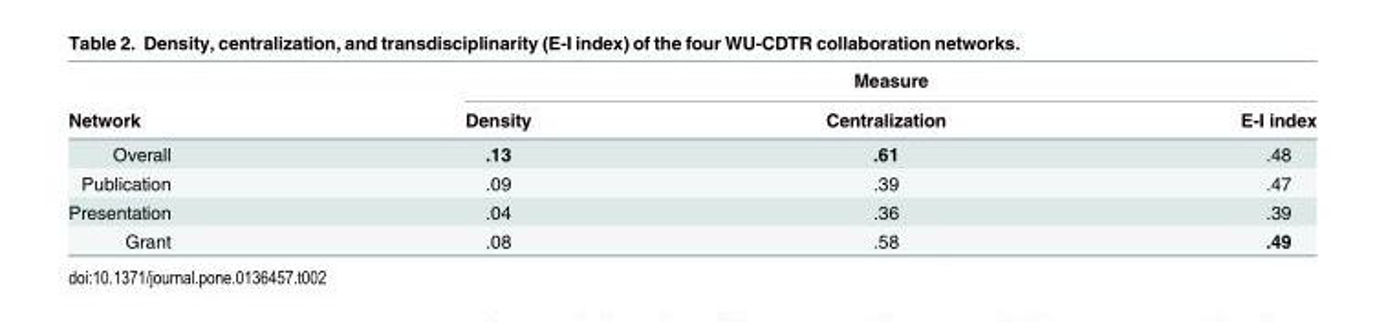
<table><thead><tr><td rowspan="2">Network</td><td colspan="3">Measure</td></tr><tr><td>Density</td><td>Centralization</td><td>E-I index</td></tr></thead><tbody><tr><td>Overall</td><td>.13</td><td>.61</td><td>.48</td></tr><tr><td>Publication</td><td>.09</td><td>.39</td><td>.47</td></tr><tr><td>Presentation</td><td>.04</td><td>.36</td><td>.39</td></tr><tr><td>Grant</td><td>.08</td><td>.58</td><td>.49</td></tr></tbody></table>